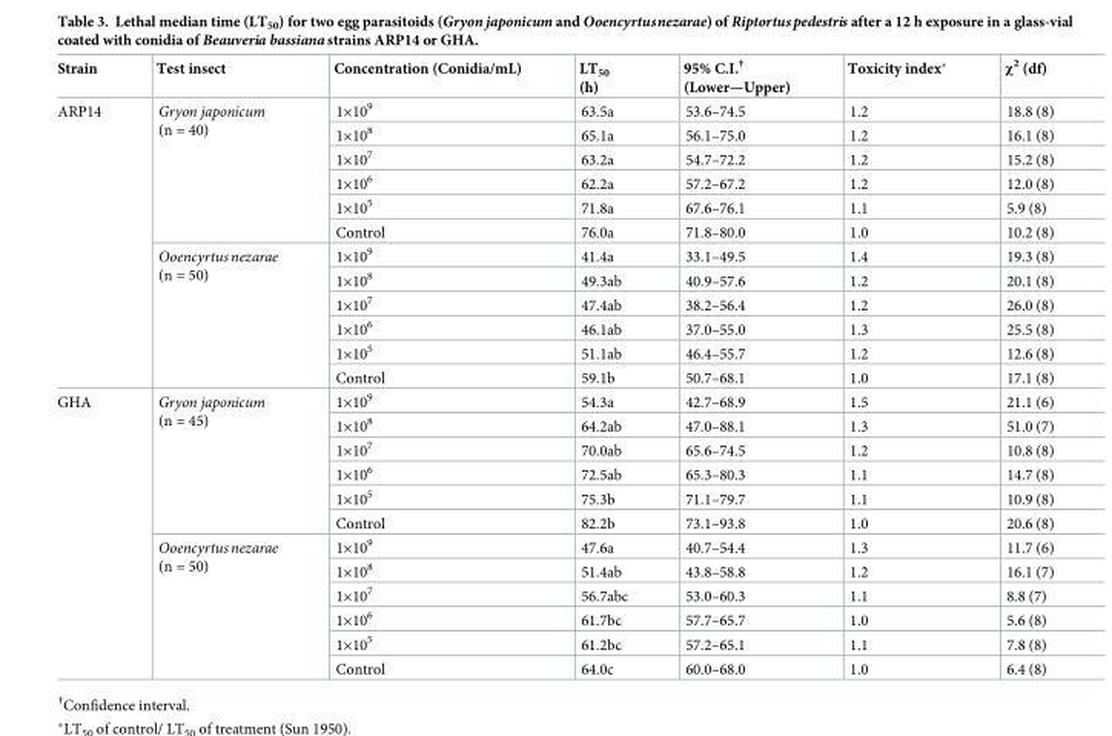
<table><thead><tr><td>Strain</td><td>Test insect</td><td>Concentration (Conidia/mL)</td><td>LT<sub>50</sub> (h)</td><td>95% C.I.<sup>†</sup> (Lower—Upper)</td><td>Toxicity index*</td><td>χ<sup>2</sup> (df)</td></tr></thead><tbody><tr><td rowspan="12">ARP14</td><td rowspan="6">Gryon japonicum (n = 40)</td><td>1×10<sup>9</sup></td><td>63.5a</td><td>53.6–74.5</td><td>1.2</td><td>18.8 (8)</td></tr><tr><td>1×10<sup>8</sup></td><td>65.1a</td><td>56.1–75.0</td><td>1.2</td><td>16.1 (8)</td></tr><tr><td>1×10<sup>7</sup></td><td>63.2a</td><td>54.7–72.2</td><td>1.2</td><td>15.2 (8)</td></tr><tr><td>1×10<sup>6</sup></td><td>62.2a</td><td>57.2–67.2</td><td>1.2</td><td>12.0 (8)</td></tr><tr><td>1×10<sup>5</sup></td><td>71.8a</td><td>67.6–76.1</td><td>1.1</td><td>5.9 (8)</td></tr><tr><td>Control</td><td>76.0a</td><td>71.8–80.0</td><td>1.0</td><td>10.2 (8)</td></tr><tr><td rowspan="6">Ooencyrtusnezarae (n = 50)</td><td>1×10<sup>9</sup></td><td>41.4a</td><td>33.1–49.5</td><td>1.4</td><td>19.3 (8)</td></tr><tr><td>1×10<sup>8</sup></td><td>49.3ab</td><td>40.9–57.6</td><td>1.2</td><td>20.1 (8)</td></tr><tr><td>1×10<sup>7</sup></td><td>47.4ab</td><td>38.2–56.4</td><td>1.2</td><td>26.0 (8)</td></tr><tr><td>1×10<sup>6</sup></td><td>46.1ab</td><td>37.0–55.0</td><td>1.3</td><td>25.5 (8)</td></tr><tr><td>1×10<sup>5</sup></td><td>51.1ab</td><td>46.4–55.7</td><td>1.2</td><td>12.6 (8)</td></tr><tr><td>Control</td><td>59.1b</td><td>50.7–68.1</td><td>1.0</td><td>17.1 (8)</td></tr><tr><td rowspan="12">GHA</td><td rowspan="6">Gryon japonicum (n = 45)</td><td>1×10<sup>9</sup></td><td>54.3a</td><td>42.7–68.9</td><td>1.5</td><td>21.1 (6)</td></tr><tr><td>1×10<sup>8</sup></td><td>64.2ab</td><td>47.0–88.1</td><td>1.3</td><td>51.0 (7)</td></tr><tr><td>1×10<sup>7</sup></td><td>70.0ab</td><td>65.6–74.5</td><td>1.2</td><td>10.8 (8)</td></tr><tr><td>1×10<sup>6</sup></td><td>72.5ab</td><td>65.3–80.3</td><td>1.1</td><td>14.7 (8)</td></tr><tr><td>1×10<sup>5</sup></td><td>75.3b</td><td>71.1–79.7</td><td>1.1</td><td>10.9 (8)</td></tr><tr><td>Control</td><td>82.2b</td><td>73.1–93.8</td><td>1.0</td><td>20.6 (8)</td></tr><tr><td rowspan="6">Ooencyrtusnezarae (n = 50)</td><td>1×10<sup>9</sup></td><td>47.6a</td><td>40.7–54.4</td><td>1.3</td><td>11.7 (6)</td></tr><tr><td>1×10<sup>8</sup></td><td>51.4ab</td><td>43.8–58.8</td><td>1.2</td><td>16.1 (7)</td></tr><tr><td>1×10<sup>7</sup></td><td>56.7abc</td><td>53.0–60.3</td><td>1.1</td><td>8.8 (7)</td></tr><tr><td>1×10<sup>6</sup></td><td>61.7bc</td><td>57.7–65.7</td><td>1.0</td><td>5.6 (8)</td></tr><tr><td>1×10<sup>5</sup></td><td>61.2bc</td><td>57.2–65.1</td><td>1.1</td><td>7.8 (8)</td></tr><tr><td>Control</td><td>64.0c</td><td>60.0–68.0</td><td>1.0</td><td>6.4 (8)</td></tr></tbody></table>